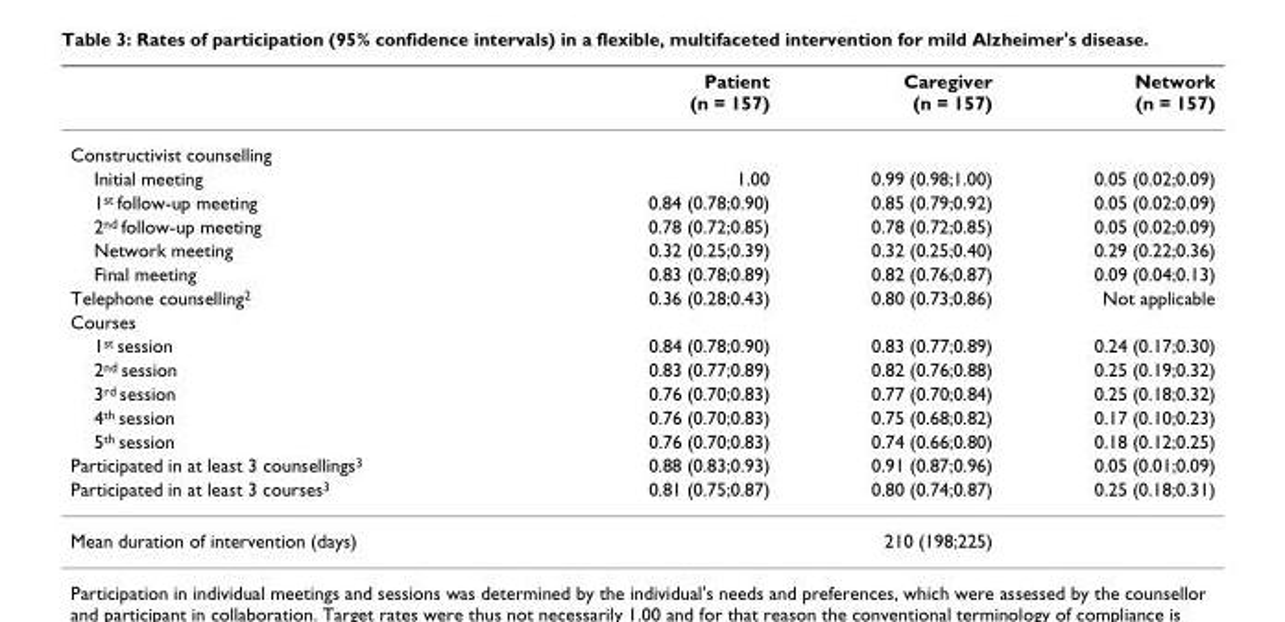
<table><thead><tr><td></td><td>Patient (n = 157)</td><td>Caregiver (n = 157)</td><td>Network (n = 157)</td></tr></thead><tbody><tr><td colspan="4">Constructivist counselling</td></tr><tr><td>Initial meeting</td><td>1.00</td><td>0.99 (0.98;1.00)</td><td>0.05 (0.02;0.09)</td></tr><tr><td>1<sup>st</sup> follow-up meeting</td><td>0.84 (0.78;0.90)</td><td>0.85 (0.79;0.92)</td><td>0.05 (0.02;0.09)</td></tr><tr><td>2<sup>nd</sup> follow-up meeting</td><td>0.78 (0.72;0.85)</td><td>0.78 (0.72;0.85)</td><td>0.05 (0.02;0.09)</td></tr><tr><td>Network meeting</td><td>0.32 (0.25;0.39)</td><td>0.32 (0.25;0.40)</td><td>0.29 (0.22;0.36)</td></tr><tr><td>Final meeting</td><td>0.83 (0.78;0.89)</td><td>0.82 (0.76;0.87)</td><td>0.09 (0.04;0.13)</td></tr><tr><td>Telephone counselling<sup>2</sup></td><td>0.36 (0.28;0.43)</td><td>0.80 (0.73;0.86)</td><td>Not applicable</td></tr><tr><td colspan="4">Courses</td></tr><tr><td>1<sup>st</sup> session</td><td>0.84 (0.78;0.90)</td><td>0.83 (0.77;0.89)</td><td>0.24 (0.17;0.30)</td></tr><tr><td>2<sup>nd</sup> session</td><td>0.83 (0.77;0.89)</td><td>0.82 (0.76;0.88)</td><td>0.25 (0.19;0.32)</td></tr><tr><td>3<sup>rd</sup> session</td><td>0.76 (0.70;0.83)</td><td>0.77 (0.70;0.84)</td><td>0.25 (0.18;0.32)</td></tr><tr><td>4<sup>th</sup> session</td><td>0.76 (0.70;0.83)</td><td>0.75 (0.68;0.82)</td><td>0.17 (0.10;0.23)</td></tr><tr><td>5<sup>th</sup> session</td><td>0.76 (0.70;0.83)</td><td>0.74 (0.66;0.80)</td><td>0.18 (0.12;0.25)</td></tr><tr><td>Participated in at least 3 counsellings<sup>3</sup></td><td>0.88 (0.83;0.93)</td><td>0.91 (0.87;0.96)</td><td>0.05 (0.01;0.09)</td></tr><tr><td>Participated in at least 3 courses<sup>3</sup></td><td>0.81 (0.75;0.87)</td><td>0.80 (0.74;0.87)</td><td>0.25 (0.18;0.31)</td></tr><tr><td>Mean duration of intervention (days)</td><td></td><td>210 (198;225)</td><td></td></tr></tbody></table>